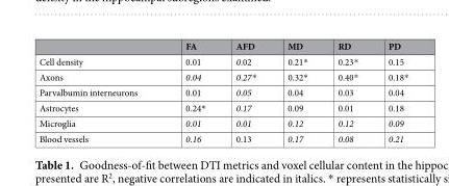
<table><thead><tr><td></td><td>FA</td><td>AFD</td><td>MD</td><td>RD</td><td>PD</td></tr></thead><tbody><tr><td>Cell density</td><td>0.01</td><td>0.02</td><td>0.21*</td><td>0.23*</td><td>0.15</td></tr><tr><td>Axons</td><td>0.04</td><td>0.27*</td><td>0.32*</td><td>0.40*</td><td>0.18*</td></tr><tr><td>Parvalbumin interneurons</td><td>0.01</td><td>0.05</td><td>0.04</td><td>0.03</td><td>0.04</td></tr><tr><td>Astrocytes</td><td>0.24*</td><td>0.17</td><td>0.09</td><td>0.01</td><td>0.18</td></tr><tr><td>Microglia</td><td>0.01</td><td>0.01</td><td>0.12</td><td>0.12</td><td>0.09</td></tr><tr><td>Blood vessels</td><td>0.16</td><td>0.13</td><td>0.17</td><td>0.08</td><td>0.21</td></tr></tbody></table>